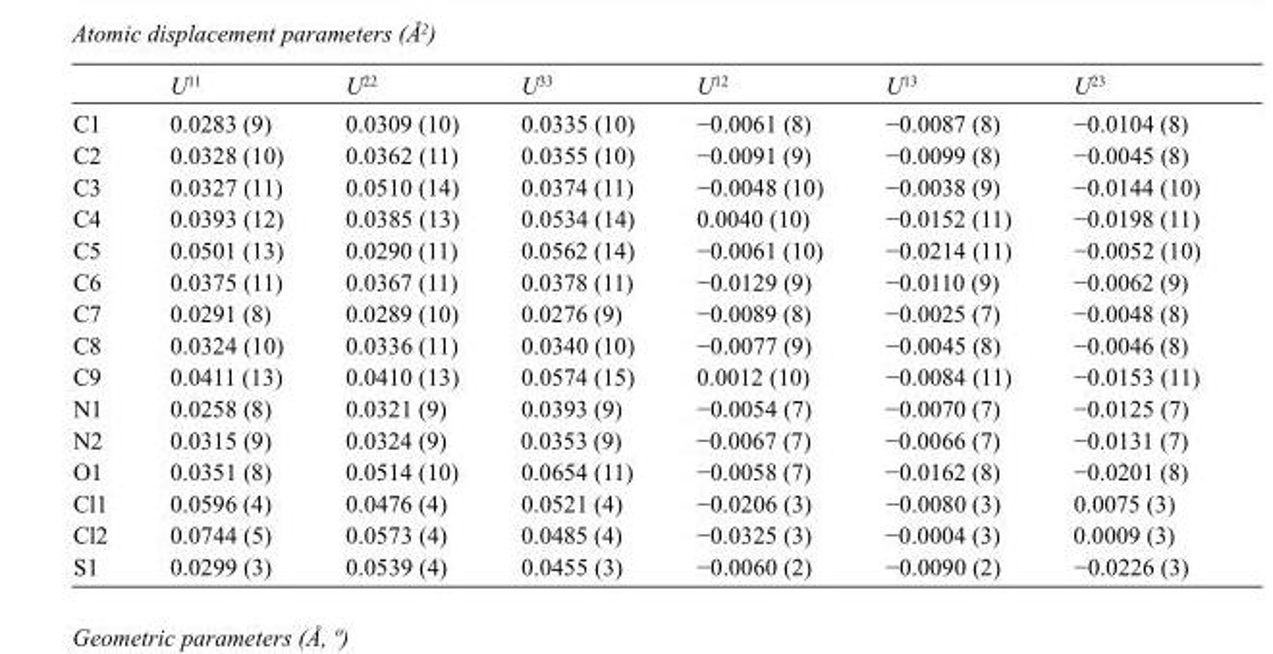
<table><thead><tr><td></td><td>U<sup>11</sup></td><td>U<sup>22</sup></td><td>U<sup>33</sup></td><td>U<sup>12</sup></td><td>U<sup>13</sup></td><td>U<sup>23</sup></td></tr></thead><tbody><tr><td>C1</td><td>0.0283 (9)</td><td>0.0309 (10)</td><td>0.0335 (10)</td><td>−0.0061 (8)</td><td>−0.0087 (8)</td><td>−0.0104 (8)</td></tr><tr><td>C2</td><td>0.0328 (10)</td><td>0.0362 (11)</td><td>0.0355 (10)</td><td>−0.0091 (9)</td><td>−0.0099 (8)</td><td>−0.0045 (8)</td></tr><tr><td>C3</td><td>0.0327 (11)</td><td>0.0510 (14)</td><td>0.0374 (11)</td><td>−0.0048 (10)</td><td>−0.0038 (9)</td><td>−0.0144 (10)</td></tr><tr><td>C4</td><td>0.0393 (12)</td><td>0.0385 (13)</td><td>0.0534 (14)</td><td>0.0040 (10)</td><td>−0.0152 (11)</td><td>−0.0198 (11)</td></tr><tr><td>C5</td><td>0.0501 (13)</td><td>0.0290 (11)</td><td>0.0562 (14)</td><td>−0.0061 (10)</td><td>−0.0214 (11)</td><td>−0.0052 (10)</td></tr><tr><td>C6</td><td>0.0375 (11)</td><td>0.0367 (11)</td><td>0.0378 (11)</td><td>−0.0129 (9)</td><td>−0.0110 (9)</td><td>−0.0062 (9)</td></tr><tr><td>C7</td><td>0.0291 (8)</td><td>0.0289 (10)</td><td>0.0276 (9)</td><td>−0.0089 (8)</td><td>−0.0025 (7)</td><td>−0.0048 (8)</td></tr><tr><td>C8</td><td>0.0324 (10)</td><td>0.0336 (11)</td><td>0.0340 (10)</td><td>−0.0077 (9)</td><td>−0.0045 (8)</td><td>−0.0046 (8)</td></tr><tr><td>C9</td><td>0.0411 (13)</td><td>0.0410 (13)</td><td>0.0574 (15)</td><td>0.0012 (10)</td><td>−0.0084 (11)</td><td>−0.0153 (11)</td></tr><tr><td>N1</td><td>0.0258 (8)</td><td>0.0321 (9)</td><td>0.0393 (9)</td><td>−0.0054 (7)</td><td>−0.0070 (7)</td><td>−0.0125 (7)</td></tr><tr><td>N2</td><td>0.0315 (9)</td><td>0.0324 (9)</td><td>0.0353 (9)</td><td>−0.0067 (7)</td><td>−0.0066 (7)</td><td>−0.0131 (7)</td></tr><tr><td>O1</td><td>0.0351 (8)</td><td>0.0514 (10)</td><td>0.0654 (11)</td><td>−0.0058 (7)</td><td>−0.0162 (8)</td><td>−0.0201 (8)</td></tr><tr><td>Cl1</td><td>0.0596 (4)</td><td>0.0476 (4)</td><td>0.0521 (4)</td><td>−0.0206 (3)</td><td>−0.0080 (3)</td><td>0.0075 (3)</td></tr><tr><td>Cl2</td><td>0.0744 (5)</td><td>0.0573 (4)</td><td>0.0485 (4)</td><td>−0.0325 (3)</td><td>−0.0004 (3)</td><td>0.0009 (3)</td></tr><tr><td>S1</td><td>0.0299 (3)</td><td>0.0539 (4)</td><td>0.0455 (3)</td><td>−0.0060 (2)</td><td>−0.0090 (2)</td><td>−0.0226 (3)</td></tr></tbody></table>